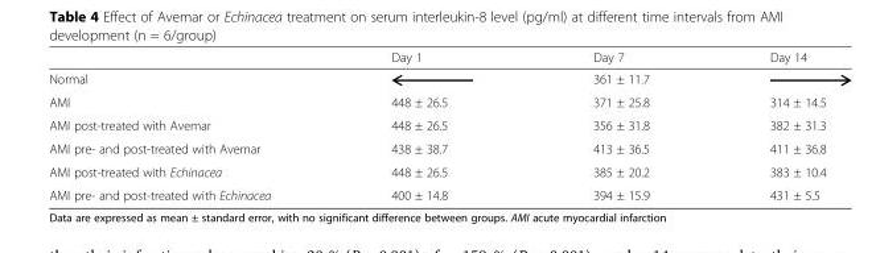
<table><thead><tr><td></td><td>Day 1</td><td>Day 7</td><td>Day 14</td></tr></thead><tbody><tr><td>Normal</td><td></td><td>361 ± 11.7</td><td></td></tr><tr><td>AMI</td><td>448 ± 26.5</td><td>371 ± 25.8</td><td>314 ± 14.5</td></tr><tr><td>AMI post-treated with Avemar</td><td>448 ± 26.5</td><td>356 ± 31.8</td><td>382 ± 31.3</td></tr><tr><td>AMI pre- and post-treated with Avemar</td><td>438 ± 38.7</td><td>413 ± 36.5</td><td>411 ± 36.8</td></tr><tr><td>AMI post-treated with Echinacea</td><td>448 ± 26.5</td><td>385 ± 20.2</td><td>383 ± 10.4</td></tr><tr><td>AMI pre- and post-treated with Echinacea</td><td>400 ± 14.8</td><td>394 ± 15.9</td><td>431 ± 5.5</td></tr></tbody></table>